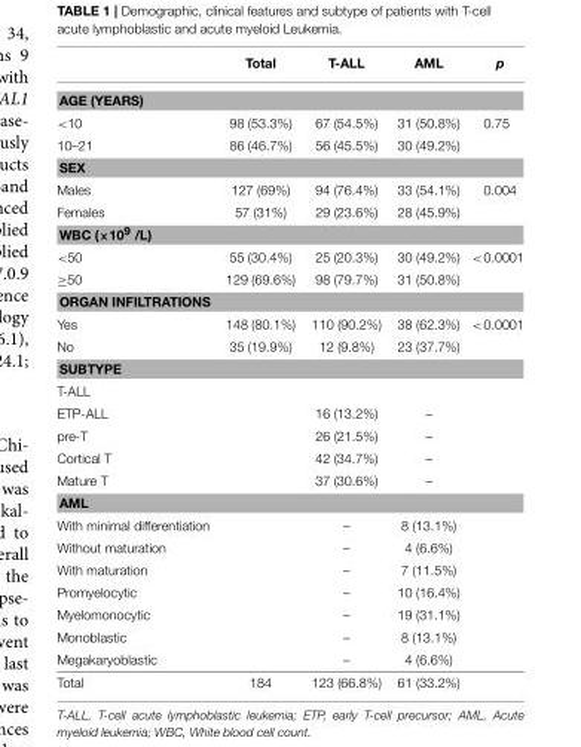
<table><thead><tr><td></td><td>Total</td><td>T-ALL</td><td>AML</td><td>p</td></tr></thead><tbody><tr><td colspan="5">AGE (YEARS)</td></tr><tr><td>&lt;10</td><td>98 (53.3%)</td><td>67 (54.5%)</td><td>31 (50.8%)</td><td>0.75</td></tr><tr><td>10–21</td><td>86 (46.7%)</td><td>56 (45.5%)</td><td>30 (49.2%)</td><td></td></tr><tr><td colspan="5">SEX</td></tr><tr><td>Males</td><td>127 (69%)</td><td>94 (76.4%)</td><td>33 (54.1%)</td><td>0.004</td></tr><tr><td>Females</td><td>57 (31%)</td><td>29 (23.6%)</td><td>28 (45.9%)</td><td></td></tr><tr><td colspan="5">WBC (×10<sup>9</sup> /L)</td></tr><tr><td>&lt;50</td><td>55 (30.4%)</td><td>25 (20.3%)</td><td>30 (49.2%)</td><td>&lt;0.0001</td></tr><tr><td>≥50</td><td>129 (69.6%)</td><td>98 (79.7%)</td><td>31 (50.8%)</td><td></td></tr><tr><td colspan="5">ORGAN INFILTRATIONS</td></tr><tr><td>Yes</td><td>148 (80.1%)</td><td>110 (90.2%)</td><td>38 (62.3%)</td><td>&lt;0.0001</td></tr><tr><td>No</td><td>35 (19.9%)</td><td>12 (9.8%)</td><td>23 (37.7%)</td><td></td></tr><tr><td colspan="5">SUBTYPE</td></tr><tr><td colspan="5">T-ALL</td></tr><tr><td>ETP-ALL</td><td></td><td>16 (13.2%)</td><td>–</td><td></td></tr><tr><td>pre-T</td><td></td><td>26 (21.5%)</td><td>–</td><td></td></tr><tr><td>Cortical T</td><td></td><td>42 (34.7%)</td><td>–</td><td></td></tr><tr><td>Mature T</td><td></td><td>37 (30.6%)</td><td>–</td><td></td></tr><tr><td colspan="5">AML</td></tr><tr><td>With minimal differentiation</td><td></td><td>–</td><td>8 (13.1%)</td><td></td></tr><tr><td>Without maturation</td><td></td><td>–</td><td>4 (6.6%)</td><td></td></tr><tr><td>With maturation</td><td></td><td>–</td><td>7 (11.5%)</td><td></td></tr><tr><td>Promyelocytic</td><td></td><td>–</td><td>10 (16.4%)</td><td></td></tr><tr><td>Myelomonocytic</td><td></td><td>–</td><td>19 (31.1%)</td><td></td></tr><tr><td>Monoblastic</td><td></td><td>–</td><td>8 (13.1%)</td><td></td></tr><tr><td>Megakaryoblastic</td><td></td><td>–</td><td>4 (6.6%)</td><td></td></tr><tr><td>Total</td><td>184</td><td>123 (66.8%)</td><td>61 (33.2%)</td><td></td></tr></tbody></table>